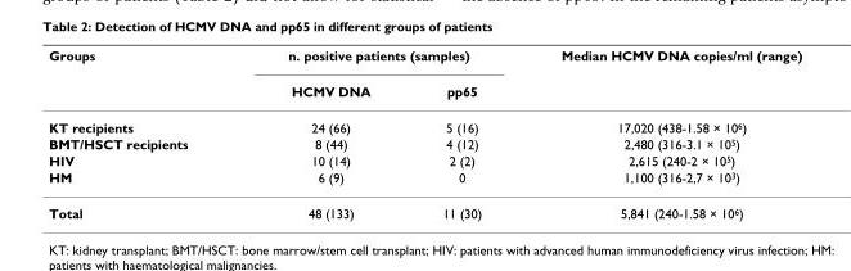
<table><thead><tr><td rowspan="2">Groups</td><td colspan="2">n. positive patients (samples)</td><td rowspan="2">Median HCMV DNA copies/ml (range)</td></tr><tr><td>HCMV DNA</td><td>pp65</td></tr></thead><tbody><tr><td>KT recipients</td><td>24 (66)</td><td>5 (16)</td><td>17,020 (438-1.58 × 10<sup>6</sup>)</td></tr><tr><td>BMT/HSCT recipients</td><td>8 (44)</td><td>4 (12)</td><td>2,480 (316-3.1 × 10<sup>5</sup>)</td></tr><tr><td>HIV</td><td>10 (14)</td><td>2 (2)</td><td>2,615 (240-2 × 10<sup>5</sup>)</td></tr><tr><td>HM</td><td>6 (9)</td><td>0</td><td>1,100 (316-2,7 × 10<sup>3</sup>)</td></tr><tr><td>Total</td><td>48 (133)</td><td>11 (30)</td><td>5,841 (240-1.58 × 10<sup>6</sup>)</td></tr></tbody></table>